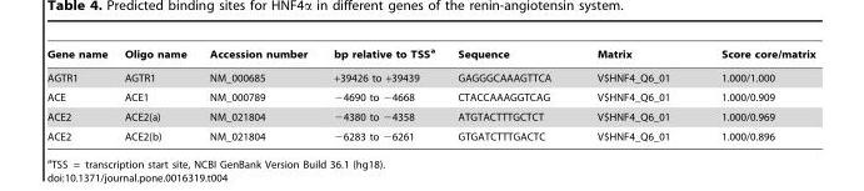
<table><thead><tr><td>Gene name</td><td>Oligo name</td><td>Accession number</td><td>bp relative to TSS<sup>a</sup></td><td>Sequence</td><td>Matrix</td><td>Score core/matrix</td></tr></thead><tbody><tr><td>AGTR1</td><td>AGTR1</td><td>NM_000685</td><td>+39426 to +39439</td><td>GAGGGCAAAGTTCA</td><td>V$HNF4_Q6_01</td><td>1.000/1.000</td></tr><tr><td>ACE</td><td>ACE1</td><td>NM_000789</td><td>−4690 to −4668</td><td>CTACCAAAGGTCAG</td><td>V$HNF4_Q6_01</td><td>1.000/0.909</td></tr><tr><td>ACE2</td><td>ACE2(a)</td><td>NM_021804</td><td>−4380 to −4358</td><td>ATGTACTTTGCTCT</td><td>V$HNF4_Q6_01</td><td>1.000/0.969</td></tr><tr><td>ACE2</td><td>ACE2(b)</td><td>NM_021804</td><td>−6283 to −6261</td><td>GTGATCTTTGACTC</td><td>V$HNF4_Q6_01</td><td>1.000/0.896</td></tr></tbody></table>